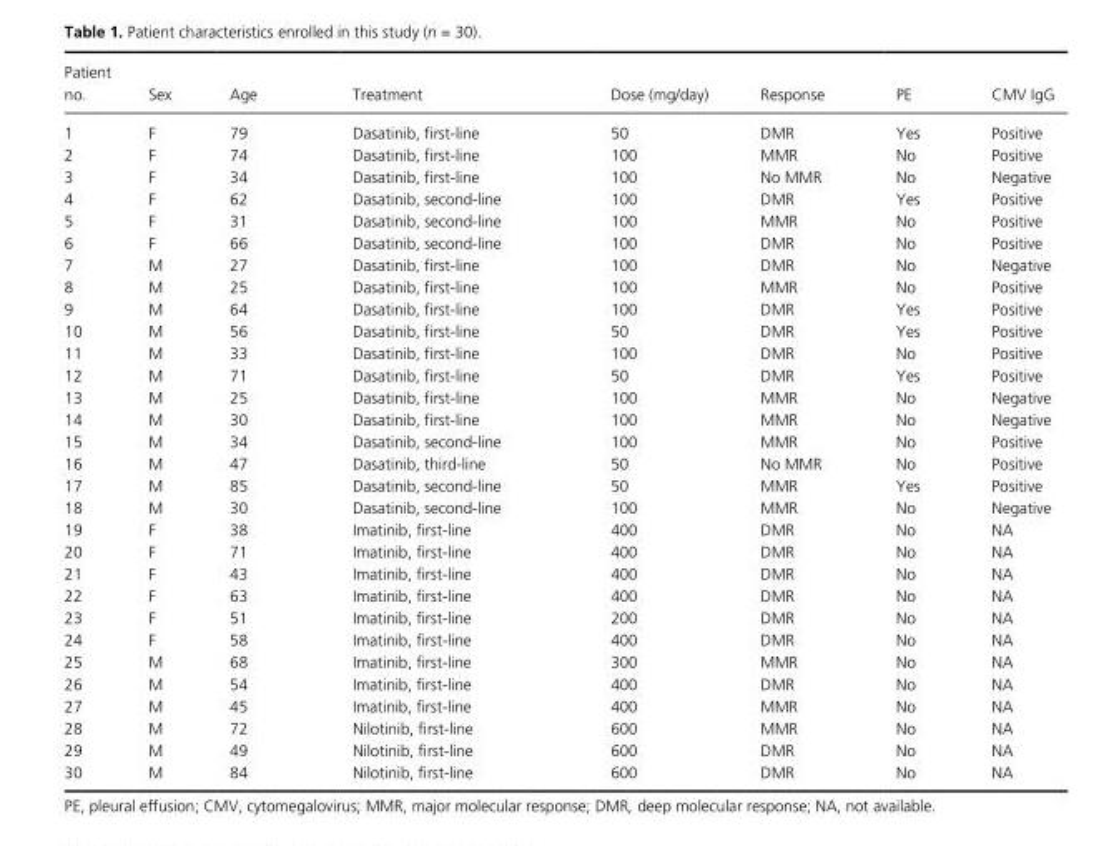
<table><thead><tr><td>Patient no.</td><td>Sex</td><td>Age</td><td>Treatment</td><td>Dose (mg/day)</td><td>Response</td><td>PE</td><td>CMV IgG</td></tr></thead><tbody><tr><td>1</td><td>F</td><td>79</td><td>Dasatinib, first- line</td><td>50</td><td>DMR</td><td>Yes</td><td>Positive</td></tr><tr><td>2</td><td>F</td><td>74</td><td>Dasatinib, first- line</td><td>100</td><td>MMR</td><td>No</td><td>Positive</td></tr><tr><td>3</td><td>F</td><td>34</td><td>Dasatinib, first- line</td><td>100</td><td>No MMR</td><td>No</td><td>Negative</td></tr><tr><td>4</td><td>F</td><td>62</td><td>Dasatinib, second- line</td><td>100</td><td>DMR</td><td>Yes</td><td>Positive</td></tr><tr><td>5</td><td>F</td><td>31</td><td>Dasatinib, second- line</td><td>100</td><td>MMR</td><td>No</td><td>Positive</td></tr><tr><td>6</td><td>F</td><td>66</td><td>Dasatinib, second- line</td><td>100</td><td>DMR</td><td>No</td><td>Positive</td></tr><tr><td>7</td><td>M</td><td>27</td><td>Dasatinib, first- line</td><td>100</td><td>DMR</td><td>No</td><td>Negative</td></tr><tr><td>8</td><td>M</td><td>25</td><td>Dasatinib, first- line</td><td>100</td><td>MMR</td><td>No</td><td>Positive</td></tr><tr><td>9</td><td>M</td><td>64</td><td>Dasatinib, first- line</td><td>100</td><td>DMR</td><td>Yes</td><td>Positive</td></tr><tr><td>10</td><td>M</td><td>56</td><td>Dasatinib, first- line</td><td>50</td><td>DMR</td><td>Yes</td><td>Positive</td></tr><tr><td>11</td><td>M</td><td>33</td><td>Dasatinib, first- line</td><td>100</td><td>DMR</td><td>No</td><td>Positive</td></tr><tr><td>12</td><td>M</td><td>71</td><td>Dasatinib, first- line</td><td>50</td><td>DMR</td><td>Yes</td><td>Positive</td></tr><tr><td>13</td><td>M</td><td>25</td><td>Dasatinib, first- line</td><td>100</td><td>MMR</td><td>No</td><td>Negative</td></tr><tr><td>14</td><td>M</td><td>30</td><td>Dasatinib, first- line</td><td>100</td><td>MMR</td><td>No</td><td>Negative</td></tr><tr><td>15</td><td>M</td><td>34</td><td>Dasatinib, second- line</td><td>100</td><td>MMR</td><td>No</td><td>Positive</td></tr><tr><td>16</td><td>M</td><td>47</td><td>Dasatinib, third- line</td><td>50</td><td>No MMR</td><td>No</td><td>Positive</td></tr><tr><td>17</td><td>M</td><td>85</td><td>Dasatinib, second- line</td><td>50</td><td>MMR</td><td>Yes</td><td>Positive</td></tr><tr><td>18</td><td>M</td><td>30</td><td>Dasatinib, second- line</td><td>100</td><td>MMR</td><td>No</td><td>Negative</td></tr><tr><td>19</td><td>F</td><td>38</td><td>Imatinib, first- line</td><td>400</td><td>DMR</td><td>No</td><td>NA</td></tr><tr><td>20</td><td>F</td><td>71</td><td>Imatinib, first- line</td><td>400</td><td>DMR</td><td>No</td><td>NA</td></tr><tr><td>21</td><td>F</td><td>43</td><td>Imatinib, first- line</td><td>400</td><td>DMR</td><td>No</td><td>NA</td></tr><tr><td>22</td><td>F</td><td>63</td><td>Imatinib, first- line</td><td>400</td><td>DMR</td><td>No</td><td>NA</td></tr><tr><td>23</td><td>F</td><td>51</td><td>Imatinib, first- line</td><td>200</td><td>DMR</td><td>No</td><td>NA</td></tr><tr><td>24</td><td>F</td><td>58</td><td>Imatinib, first- line</td><td>400</td><td>DMR</td><td>No</td><td>NA</td></tr><tr><td>25</td><td>M</td><td>68</td><td>Imatinib, first- line</td><td>300</td><td>MMR</td><td>No</td><td>NA</td></tr><tr><td>26</td><td>M</td><td>54</td><td>Imatinib, first- line</td><td>400</td><td>DMR</td><td>No</td><td>NA</td></tr><tr><td>27</td><td>M</td><td>45</td><td>Imatinib, first- line</td><td>400</td><td>MMR</td><td>No</td><td>NA</td></tr><tr><td>28</td><td>M</td><td>72</td><td>Nilotinib, first- line</td><td>600</td><td>MMR</td><td>No</td><td>NA</td></tr><tr><td>29</td><td>M</td><td>49</td><td>Nilotinib, first- line</td><td>600</td><td>DMR</td><td>No</td><td>NA</td></tr><tr><td>30</td><td>M</td><td>84</td><td>Nilotinib, first- line</td><td>600</td><td>DMR</td><td>No</td><td>NA</td></tr></tbody></table>